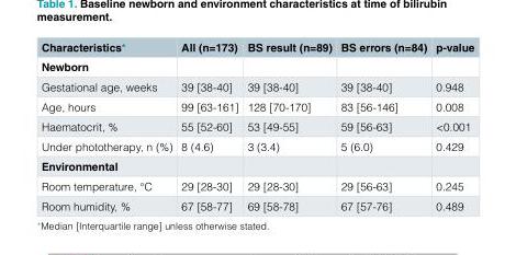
<table><thead><tr><td>Characteristics*</td><td>All (n=173)</td><td>BS result (n=89)</td><td>BS errors (n=84)</td><td>p-value</td></tr></thead><tbody><tr><td colspan="5">Newborn</td></tr><tr><td>Gestational age, weeks</td><td>39 [38-40]</td><td>39 [38-40]</td><td>39 [38-40]</td><td>0.948</td></tr><tr><td>Age, hours</td><td>99 [63-161]</td><td>128 [70-170]</td><td>83 [56-146]</td><td>0.008</td></tr><tr><td>Haematocrit, %</td><td>55 [52-60]</td><td>53 [49-55]</td><td>59 [56-63]</td><td>&lt;0.001</td></tr><tr><td>Under phototherapy, n (%)</td><td>8 (4.6)</td><td>3 (3.4)</td><td>5 (6.0)</td><td>0.429</td></tr><tr><td colspan="5">Environmental</td></tr><tr><td>Room temperature, °C</td><td>29 [28-30]</td><td>29 [28-30]</td><td>29 [56-63]</td><td>0.245</td></tr><tr><td>Room humidity, %</td><td>67 [58-77]</td><td>69 [58-78]</td><td>67 [57-76]</td><td>0.489</td></tr></tbody></table>